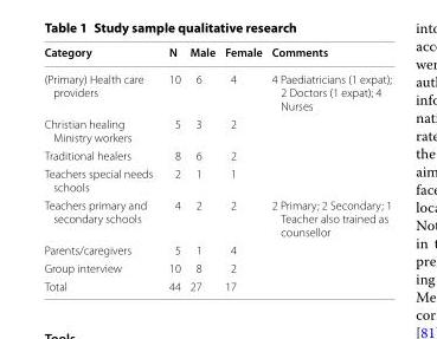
<table><thead><tr><td>Category</td><td>N</td><td>Male</td><td>Female</td><td>Comments</td></tr></thead><tbody><tr><td>(Primary) Health care providers</td><td>10</td><td>6</td><td>4</td><td>4 Paediatricians (1 expat); 2 Doctors (1 expat); 4 Nurses</td></tr><tr><td>Christian healing Ministry workers</td><td>5</td><td>3</td><td>2</td><td rowspan="3"></td></tr><tr><td>Traditional healers</td><td>8</td><td>6</td><td>2</td></tr><tr><td>Teachers special needs schools</td><td>2</td><td>1</td><td>1</td></tr><tr><td>Teachers primary and secondary schools</td><td>4</td><td>2</td><td>2</td><td>2 Primary; 2 Secondary; 1 Teacher also trained as counsellor</td></tr><tr><td>Parents/caregivers</td><td>5</td><td>1</td><td>4</td><td rowspan="3"></td></tr><tr><td>Group interview</td><td>10</td><td>8</td><td>2</td></tr><tr><td>Total</td><td>44</td><td>27</td><td>17</td></tr></tbody></table>